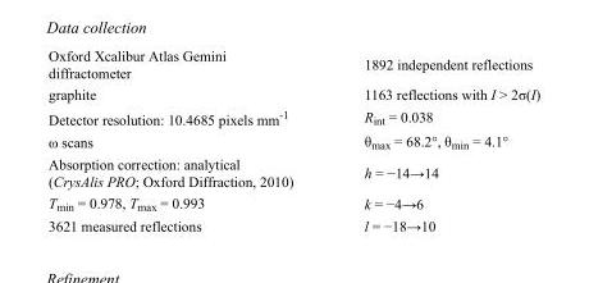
<table><tbody><tr><td>Oxford Xcalibur Atlas Gemini diffractometer</td><td>1892 independent reflections</td></tr><tr><td>graphite</td><td>1163 reflections with I &gt; 2σ(I)</td></tr><tr><td>Detector resolution: 10.4685 pixels mm<sup>-1</sup></td><td>R<sub>int</sub> = 0.038</td></tr><tr><td>ω scans</td><td>θ<sub>max</sub> = 68.2°, θ<sub>min</sub> = 4.1°</td></tr><tr><td>Absorption correction: analytical (CrysAlis PRO; Oxford Diffraction, 2010)</td><td>h = −14→14</td></tr><tr><td>T<sub>min</sub> = 0.978, T<sub>max</sub> = 0.993</td><td>k = −4→6</td></tr><tr><td>3621 measured reflections</td><td>l = −18→10</td></tr></tbody></table>